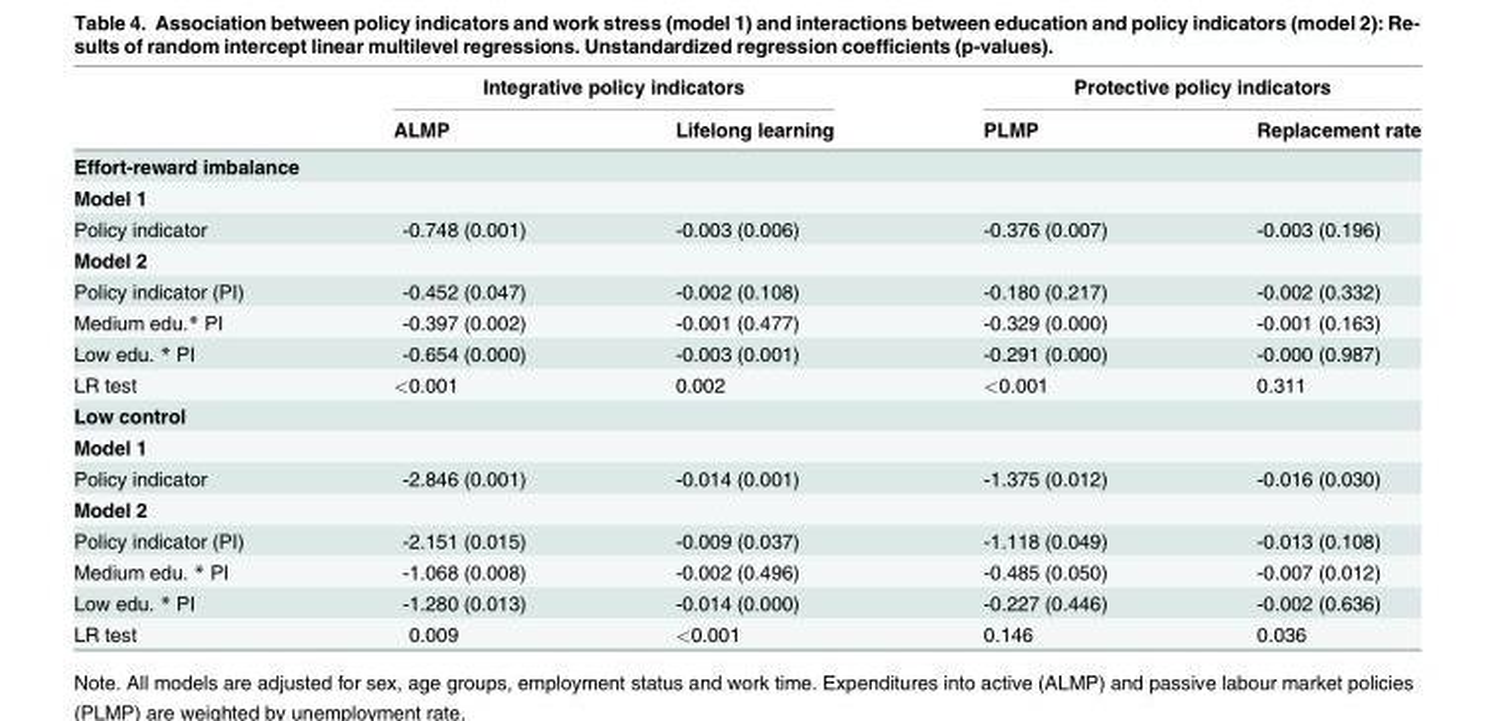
<table><thead><tr><td rowspan="2"></td><td colspan="2">Integrative policy indicators</td><td colspan="2">Protective policy indicators</td></tr><tr><td>ALMP</td><td>Lifelong learning</td><td>PLMP</td><td>Replacement rate</td></tr></thead><tbody><tr><td colspan="5">Effort-reward imbalance</td></tr><tr><td colspan="5">Model 1</td></tr><tr><td>Policy indicator</td><td>-0.748 (0.001)</td><td>-0.003 (0.006)</td><td>-0.376 (0.007)</td><td>-0.003 (0.196)</td></tr><tr><td colspan="5">Model 2</td></tr><tr><td>Policy indicator (PI)</td><td>-0.452 (0.047)</td><td>-0.002 (0.108)</td><td>-0.180 (0.217)</td><td>-0.002 (0.332)</td></tr><tr><td>Medium edu.* PI</td><td>-0.397 (0.002)</td><td>-0.001 (0.477)</td><td>-0.329 (0.000)</td><td>-0.001 (0.163)</td></tr><tr><td>Low edu. * PI</td><td>-0.654 (0.000)</td><td>-0.003 (0.001)</td><td>-0.291 (0.000)</td><td>-0.000 (0.987)</td></tr><tr><td>LR test</td><td>&lt;0.001</td><td>0.002</td><td>&lt;0.001</td><td>0.311</td></tr><tr><td colspan="5">Low control</td></tr><tr><td colspan="5">Model 1</td></tr><tr><td>Policy indicator</td><td>-2.846 (0.001)</td><td>-0.014 (0.001)</td><td>-1.375 (0.012)</td><td>-0.016 (0.030)</td></tr><tr><td colspan="5">Model 2</td></tr><tr><td>Policy indicator (PI)</td><td>-2.151 (0.015)</td><td>-0.009 (0.037)</td><td>-1.118 (0.049)</td><td>-0.013 (0.108)</td></tr><tr><td>Medium edu. * PI</td><td>-1.068 (0.008)</td><td>-0.002 (0.496)</td><td>-0.485 (0.050)</td><td>-0.007 (0.012)</td></tr><tr><td>Low edu. * PI</td><td>-1.280 (0.013)</td><td>-0.014 (0.000)</td><td>-0.227 (0.446)</td><td>-0.002 (0.636)</td></tr><tr><td>LR test</td><td>0.009</td><td>&lt;0.001</td><td>0.146</td><td>0.036</td></tr></tbody></table>